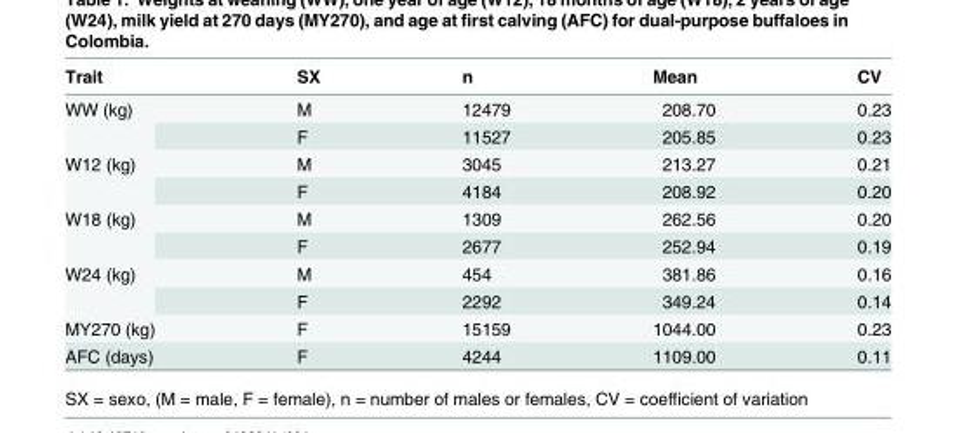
<table><thead><tr><td>Trait</td><td>SX</td><td>n</td><td>Mean</td><td>CV</td></tr></thead><tbody><tr><td rowspan="2">WW (kg)</td><td>M</td><td>12479</td><td>208.70</td><td>0.23</td></tr><tr><td>F</td><td>11527</td><td>205.85</td><td>0.23</td></tr><tr><td rowspan="2">W12 (kg)</td><td>M</td><td>3045</td><td>213.27</td><td>0.21</td></tr><tr><td>F</td><td>4184</td><td>208.92</td><td>0.20</td></tr><tr><td rowspan="2">W18 (kg)</td><td>M</td><td>1309</td><td>262.56</td><td>0.20</td></tr><tr><td>F</td><td>2677</td><td>252.94</td><td>0.19</td></tr><tr><td rowspan="2">W24 (kg)</td><td>M</td><td>454</td><td>381.86</td><td>0.16</td></tr><tr><td>F</td><td>2292</td><td>349.24</td><td>0.14</td></tr><tr><td>MY270 (kg)</td><td>F</td><td>15159</td><td>1044.00</td><td>0.23</td></tr><tr><td>AFC (days)</td><td>F</td><td>4244</td><td>1109.00</td><td>0.11</td></tr></tbody></table>